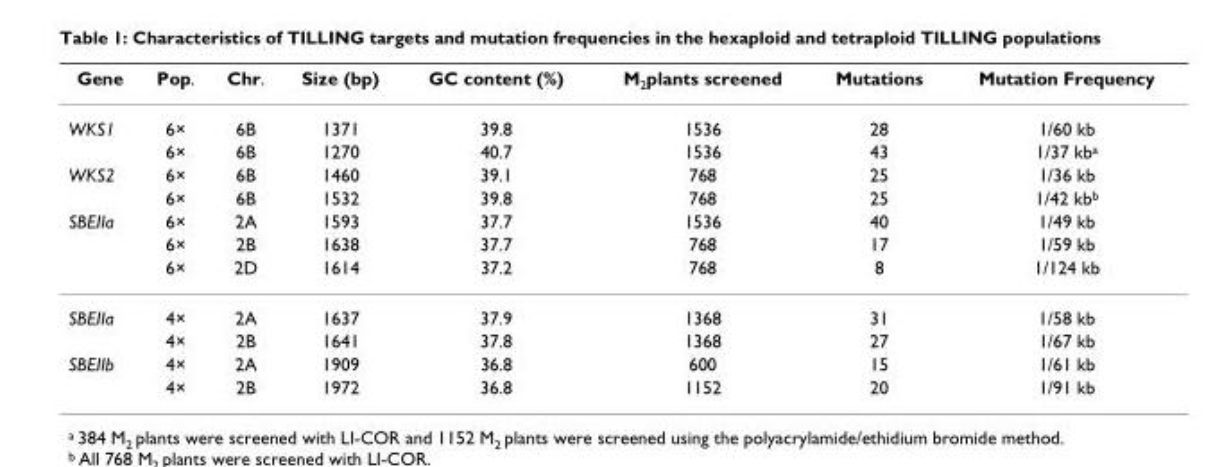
<table><thead><tr><td>Gene</td><td>Pop.</td><td>Chr.</td><td>Size (bp)</td><td>GC content (%)</td><td>M<sub>2</sub>plants screened</td><td>Mutations</td><td>Mutation Frequency</td></tr></thead><tbody><tr><td rowspan="2">WKS1</td><td>6×</td><td>6B</td><td>1371</td><td>39.8</td><td>1536</td><td>28</td><td>1/60 kb</td></tr><tr><td>6×</td><td>6B</td><td>1270</td><td>40.7</td><td>1536</td><td>43</td><td>1/37 kb<sup>a</sup></td></tr><tr><td rowspan="2">WKS2</td><td>6×</td><td>6B</td><td>1460</td><td>39.1</td><td>768</td><td>25</td><td>1/36 kb</td></tr><tr><td>6×</td><td>6B</td><td>1532</td><td>39.8</td><td>768</td><td>25</td><td>1/42 kb<sup>b</sup></td></tr><tr><td rowspan="3">SBEIIa</td><td>6×</td><td>2A</td><td>1593</td><td>37.7</td><td>1536</td><td>40</td><td>1/49 kb</td></tr><tr><td>6×</td><td>2B</td><td>1638</td><td>37.7</td><td>768</td><td>17</td><td>1/59 kb</td></tr><tr><td>6×</td><td>2D</td><td>1614</td><td>37.2</td><td>768</td><td>8</td><td>1/124 kb</td></tr><tr><td rowspan="2">SBEIIa</td><td>4×</td><td>2A</td><td>1637</td><td>37.9</td><td>1368</td><td>31</td><td>1/58 kb</td></tr><tr><td>4×</td><td>2B</td><td>1641</td><td>37.8</td><td>1368</td><td>27</td><td>1/67 kb</td></tr><tr><td rowspan="2">SBEIIb</td><td>4×</td><td>2A</td><td>1909</td><td>36.8</td><td>600</td><td>15</td><td>1/61 kb</td></tr><tr><td>4×</td><td>2B</td><td>1972</td><td>36.8</td><td>1152</td><td>20</td><td>1/91 kb</td></tr></tbody></table>